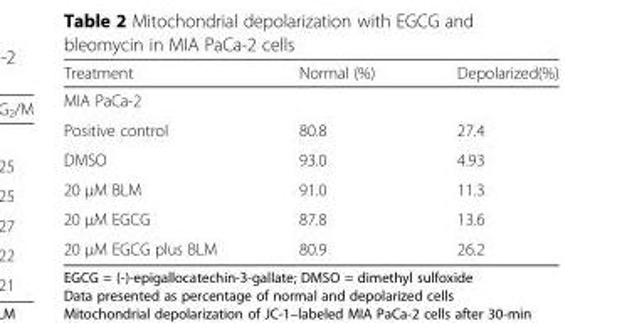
<table><thead><tr><td>Treatment</td><td>Normal (%)</td><td>Depolarized(%)</td></tr></thead><tbody><tr><td colspan="3">MIA PaCa-2</td></tr><tr><td>Positive control</td><td>80.8</td><td>27.4</td></tr><tr><td>DMSO</td><td>93.0</td><td>4.93</td></tr><tr><td>20 μM BLM</td><td>91.0</td><td>11.3</td></tr><tr><td>20 μM EGCG</td><td>87.8</td><td>13.6</td></tr><tr><td>20 μM EGCG plus BLM</td><td>80.9</td><td>26.2</td></tr></tbody></table>